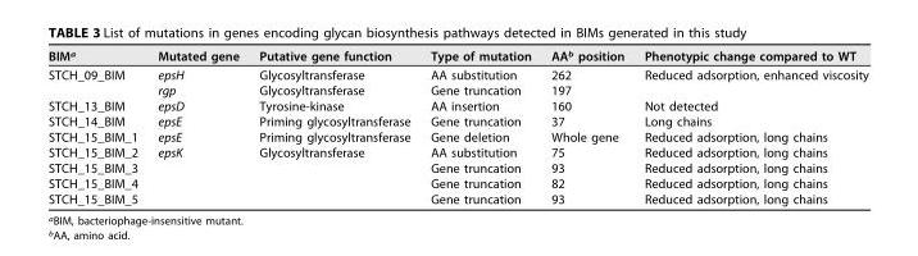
<table><thead><tr><td>BIM<sup>a</sup></td><td>Mutated gene</td><td>Putative gene function</td><td>Type of mutation</td><td>AA<sup>b</sup> position</td><td>Phenotypic change compared to WT</td></tr></thead><tbody><tr><td rowspan="2">STCH_09_BIM</td><td>epsH</td><td>Glycosyltransferase</td><td>AA substitution</td><td>262</td><td rowspan="2">Reduced adsorption, enhanced viscosity</td></tr><tr><td>rgp</td><td>Glycosyltransferase</td><td>Gene truncation</td><td>197</td></tr><tr><td>STCH_13_BIM</td><td>epsD</td><td>Tyrosine-kinase</td><td>AA insertion</td><td>160</td><td>Not detected</td></tr><tr><td>STCH_14_BIM</td><td>epsE</td><td>Priming glycosyltransferase</td><td>Gene truncation</td><td>37</td><td>Long chains</td></tr><tr><td>STCH_15_BIM_1</td><td>epsE</td><td>Priming glycosyltransferase</td><td>Gene deletion</td><td>Whole gene</td><td>Reduced adsorption, long chains</td></tr><tr><td>STCH_15_BIM_2</td><td rowspan="4">epsK</td><td rowspan="4">Glycosyltransferase</td><td>AA substitution</td><td>75</td><td>Reduced adsorption, long chains</td></tr><tr><td>STCH_15_BIM_3</td><td>Gene truncation</td><td>93</td><td>Reduced adsorption, long chains</td></tr><tr><td>STCH_15_BIM_4</td><td>Gene truncation</td><td>82</td><td>Reduced adsorption, long chains</td></tr><tr><td>STCH_15_BIM_5</td><td>Gene truncation</td><td>93</td><td>Reduced adsorption, long chains</td></tr></tbody></table>